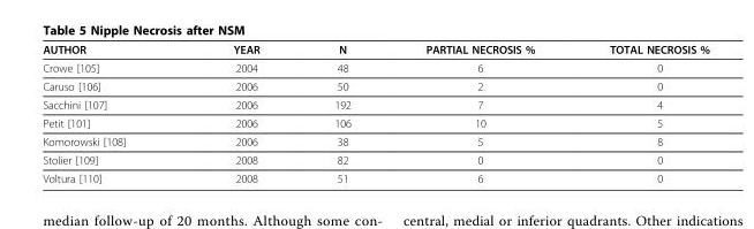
<table><thead><tr><td>AUTHOR</td><td>YEAR</td><td>N</td><td>PARTIAL NECROSIS %</td><td>TOTAL NECROSIS %</td></tr></thead><tbody><tr><td>Crowe [105]</td><td>2004</td><td>48</td><td>6</td><td>0</td></tr><tr><td>Caruso [106]</td><td>2006</td><td>50</td><td>2</td><td>0</td></tr><tr><td>Sacchini [107]</td><td>2006</td><td>192</td><td>7</td><td>4</td></tr><tr><td>Petit [101]</td><td>2006</td><td>106</td><td>10</td><td>5</td></tr><tr><td>Komorowski [108]</td><td>2006</td><td>38</td><td>5</td><td>8</td></tr><tr><td>Stolier [109]</td><td>2008</td><td>82</td><td>0</td><td>0</td></tr><tr><td>Voltura [110]</td><td>2008</td><td>51</td><td>6</td><td>0</td></tr></tbody></table>